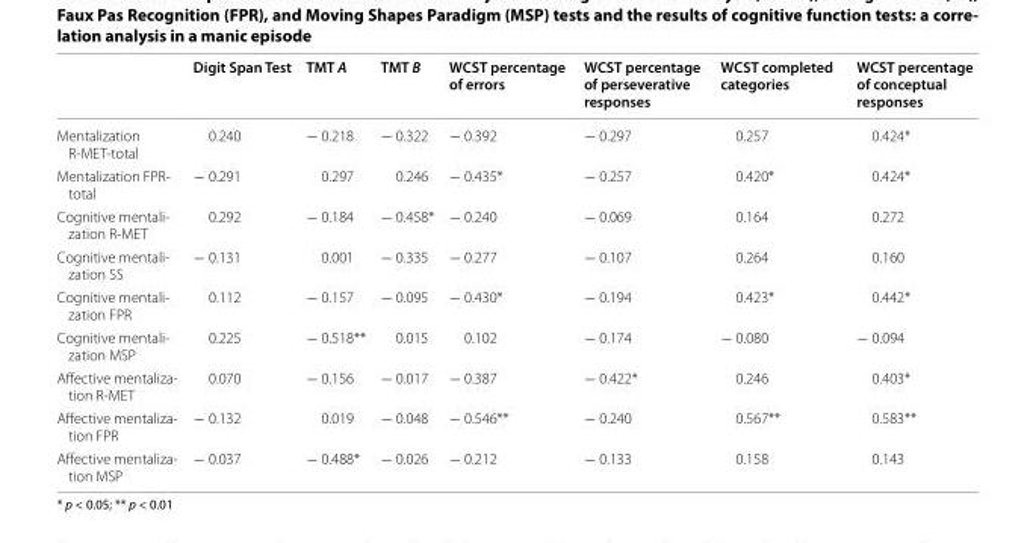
<table><thead><tr><td></td><td>Digit Span Test</td><td>TMT A</td><td>TMT B</td><td>WCST percentage of errors</td><td>WCST percentage of perseverative responses</td><td>WCST completed categories</td><td>WCST percentage of conceptual responses</td></tr></thead><tbody><tr><td>Mentalization R-MET-total</td><td>0.240</td><td>− 0.218</td><td>− 0.322</td><td>− 0.392</td><td>− 0.297</td><td>0.257</td><td>0.424*</td></tr><tr><td>Mentalization FPR- total</td><td>− 0.291</td><td>0.297</td><td>0.246</td><td>− 0.435*</td><td>− 0.257</td><td>0.420*</td><td>0.424*</td></tr><tr><td>Cognitive mentali- zation R-MET</td><td>0.292</td><td>− 0.184</td><td>− 0.458*</td><td>− 0.240</td><td>− 0.069</td><td>0.164</td><td>0.272</td></tr><tr><td>Cognitive mentali- zation SS</td><td>− 0.131</td><td>0.001</td><td>− 0.335</td><td>− 0.277</td><td>− 0.107</td><td>0.264</td><td>0.160</td></tr><tr><td>Cognitive mentali- zation FPR</td><td>0.112</td><td>− 0.157</td><td>− 0.095</td><td>− 0.430*</td><td>− 0.194</td><td>0.423*</td><td>0.442*</td></tr><tr><td>Cognitive mentali- zation MSP</td><td>0.225</td><td>− 0.518**</td><td>0.015</td><td>0.102</td><td>− 0.174</td><td>− 0.080</td><td>− 0.094</td></tr><tr><td>Affective mentaliza- tion R-MET</td><td>0.070</td><td>− 0.156</td><td>− 0.017</td><td>− 0.387</td><td>− 0.422*</td><td>0.246</td><td>0.403*</td></tr><tr><td>Affective mentaliza- tion FPR</td><td>− 0.132</td><td>0.019</td><td>− 0.048</td><td>− 0.546**</td><td>− 0.240</td><td>0.567**</td><td>0.583**</td></tr><tr><td>Affective mentaliza- tion MSP</td><td>− 0.037</td><td>− 0.488*</td><td>− 0.026</td><td>− 0.212</td><td>− 0.133</td><td>0.158</td><td>0.143</td></tr></tbody></table>